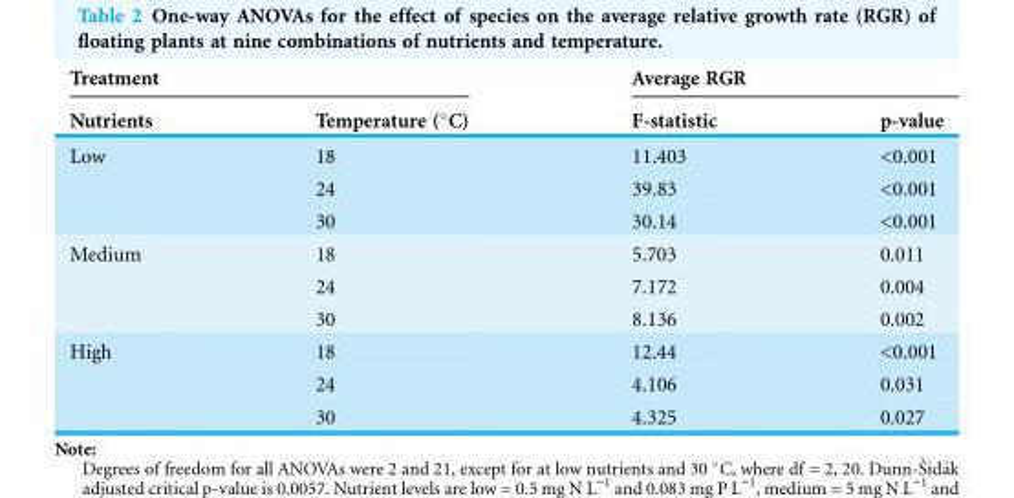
<table><thead><tr><td colspan="2">Treatment</td><td colspan="2">Average RGR</td></tr><tr><td>Nutrients</td><td>Temperature (°C)</td><td>F-statistic</td><td>p-value</td></tr></thead><tbody><tr><td rowspan="3">Low</td><td>18</td><td>11.403</td><td>&lt;0.001</td></tr><tr><td>24</td><td>39.83</td><td>&lt;0.001</td></tr><tr><td>30</td><td>30.14</td><td>&lt;0.001</td></tr><tr><td rowspan="3">Medium</td><td>18</td><td>5.703</td><td>0.011</td></tr><tr><td>24</td><td>7.172</td><td>0.004</td></tr><tr><td>30</td><td>8.136</td><td>0.002</td></tr><tr><td rowspan="3">High</td><td>18</td><td>12.44</td><td>&lt;0.001</td></tr><tr><td>24</td><td>4.106</td><td>0.031</td></tr><tr><td>30</td><td>4.325</td><td>0.027</td></tr></tbody></table>